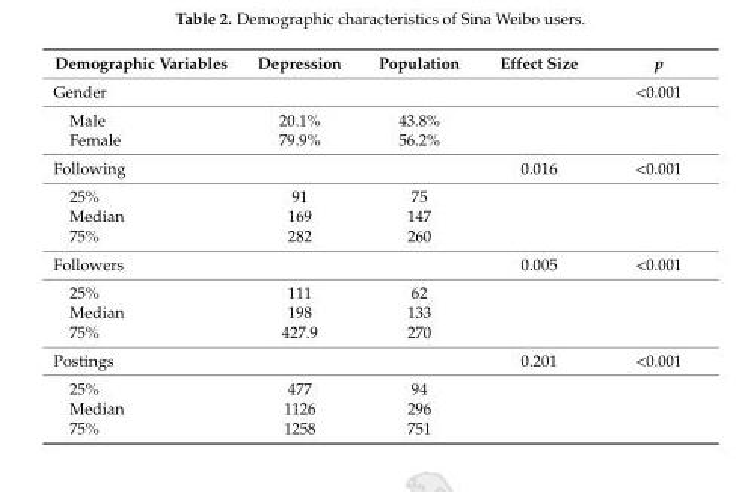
<table><thead><tr><td>Demographic Variables</td><td>Depression</td><td>Population</td><td>Effect Size</td><td>p</td></tr></thead><tbody><tr><td>Gender</td><td></td><td></td><td></td><td>&lt;0.001</td></tr><tr><td>Male</td><td>20.1%</td><td>43.8%</td><td rowspan="2"></td><td rowspan="2"></td></tr><tr><td>Female</td><td>79.9%</td><td>56.2%</td></tr><tr><td>Following</td><td></td><td></td><td>0.016</td><td>&lt;0.001</td></tr><tr><td>25%</td><td>91</td><td>75</td><td rowspan="3"></td><td rowspan="3"></td></tr><tr><td>Median</td><td>169</td><td>147</td></tr><tr><td>75%</td><td>282</td><td>260</td></tr><tr><td>Followers</td><td></td><td></td><td>0.005</td><td>&lt;0.001</td></tr><tr><td>25%</td><td>111</td><td>62</td><td rowspan="3"></td><td rowspan="3"></td></tr><tr><td>Median</td><td>198</td><td>133</td></tr><tr><td>75%</td><td>427.9</td><td>270</td></tr><tr><td>Postings</td><td></td><td></td><td>0.201</td><td>&lt;0.001</td></tr><tr><td>25%</td><td>477</td><td>94</td><td rowspan="3"></td><td rowspan="3"></td></tr><tr><td>Median</td><td>1126</td><td>296</td></tr><tr><td>75%</td><td>1258</td><td>751</td></tr></tbody></table>